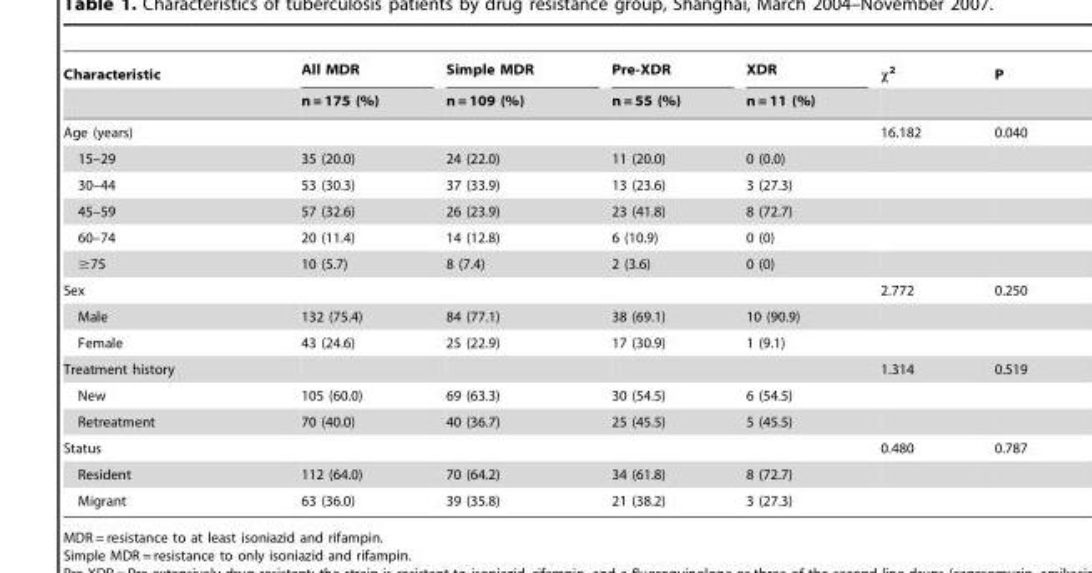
<table><thead><tr><td rowspan="2">Characteristic</td><td rowspan="2">All MDR n = 175 (%)</td><td rowspan="2">Simple MDR n = 109 (%)</td><td rowspan="2">Pre-XDR n = 55 (%)</td><td rowspan="2">XDR n = 11 (%)</td><td rowspan="2">χ<sup>2</sup></td><td rowspan="2">P</td></tr><tr></tr></thead><tbody><tr><td>Age (years)</td><td></td><td></td><td></td><td></td><td>16.182</td><td>0.040</td></tr><tr><td>15–29</td><td>35 (20.0)</td><td>24 (22.0)</td><td>11 (20.0)</td><td>0 (0.0)</td><td></td><td></td></tr><tr><td>30–44</td><td>53 (30.3)</td><td>37 (33.9)</td><td>13 (23.6)</td><td>3 (27.3)</td><td></td><td></td></tr><tr><td>45–59</td><td>57 (32.6)</td><td>26 (23.9)</td><td>23 (41.8)</td><td>8 (72.7)</td><td></td><td></td></tr><tr><td>60–74</td><td>20 (11.4)</td><td>14 (12.8)</td><td>6 (10.9)</td><td>0 (0)</td><td></td><td></td></tr><tr><td>≥75</td><td>10 (5.7)</td><td>8 (7.4)</td><td>2 (3.6)</td><td>0 (0)</td><td></td><td></td></tr><tr><td>Sex</td><td></td><td></td><td></td><td></td><td>2.772</td><td>0.250</td></tr><tr><td>Male</td><td>132 (75.4)</td><td>84 (77.1)</td><td>38 (69.1)</td><td>10 (90.9)</td><td></td><td></td></tr><tr><td>Female</td><td>43 (24.6)</td><td>25 (22.9)</td><td>17 (30.9)</td><td>1 (9.1)</td><td></td><td></td></tr><tr><td>Treatment history</td><td></td><td></td><td></td><td></td><td>1.314</td><td>0.519</td></tr><tr><td>New</td><td>105 (60.0)</td><td>69 (63.3)</td><td>30 (54.5)</td><td>6 (54.5)</td><td></td><td></td></tr><tr><td>Retreatment</td><td>70 (40.0)</td><td>40 (36.7)</td><td>25 (45.5)</td><td>5 (45.5)</td><td></td><td></td></tr><tr><td>Status</td><td></td><td></td><td></td><td></td><td>0.480</td><td>0.787</td></tr><tr><td>Resident</td><td>112 (64.0)</td><td>70 (64.2)</td><td>34 (61.8)</td><td>8 (72.7)</td><td></td><td></td></tr><tr><td>Migrant</td><td>63 (36.0)</td><td>39 (35.8)</td><td>21 (38.2)</td><td>3 (27.3)</td><td></td><td></td></tr></tbody></table>